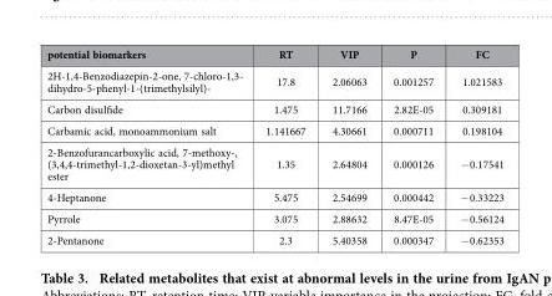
<table><thead><tr><td>potential biomarkers</td><td>RT</td><td>VIP</td><td>P</td><td>FC</td></tr></thead><tbody><tr><td>2H-1,4-Benzodiazepin-2-one, 7-chloro-1,3- dihydro-5-phenyl-1-(trimethylsilyl)-</td><td>17.8</td><td>2.06063</td><td>0.001257</td><td>1.021583</td></tr><tr><td>Carbon disulfide</td><td>1.475</td><td>11.7166</td><td>2.82E-05</td><td>0.309181</td></tr><tr><td>Carbamic acid, monoammonium salt</td><td>1.141667</td><td>4.30661</td><td>0.000711</td><td>0.198104</td></tr><tr><td>2-Benzofurancarboxylic acid, 7-methoxy-, (3,4,4-trimethyl-1,2-dioxetan-3-yl)methyl ester</td><td>1.35</td><td>2.64804</td><td>0.000126</td><td>− 0.17541</td></tr><tr><td>4-Heptanone</td><td>5.475</td><td>2.54699</td><td>0.000442</td><td>− 0.33223</td></tr><tr><td>Pyrrole</td><td>3.075</td><td>2.88632</td><td>8.47E-05</td><td>− 0.56124</td></tr><tr><td>2-Pentanone</td><td>2.3</td><td>5.40358</td><td>0.000347</td><td>− 0.62353</td></tr></tbody></table>